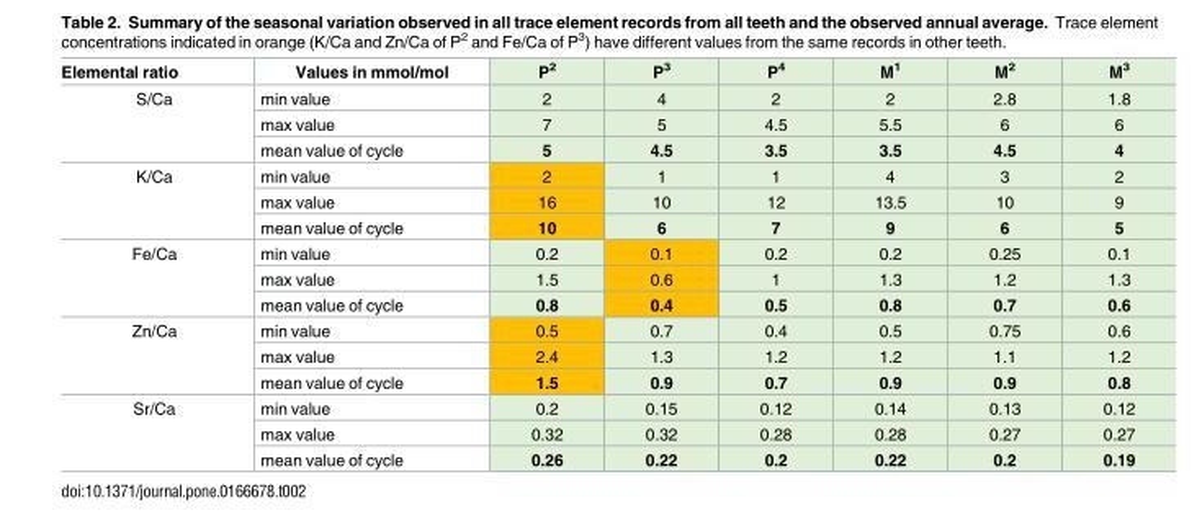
<table><thead><tr><td>Elemental ratio</td><td>Values in mmol/mol</td><td>P<sup>2</sup></td><td>P<sup>3</sup></td><td>P<sup>4</sup></td><td>M<sup>1</sup></td><td>M<sup>2</sup></td><td>M<sup>3</sup></td></tr></thead><tbody><tr><td rowspan="3">S/Ca</td><td>min value</td><td>2</td><td>4</td><td>2</td><td>2</td><td>2.8</td><td>1.8</td></tr><tr><td>max value</td><td>7</td><td>5</td><td>4.5</td><td>5.5</td><td>6</td><td>6</td></tr><tr><td>mean value of cycle</td><td>5</td><td>4.5</td><td>3.5</td><td>3.5</td><td>4.5</td><td>4</td></tr><tr><td rowspan="3">K/Ca</td><td>min value</td><td>2</td><td>1</td><td>1</td><td>4</td><td>3</td><td>2</td></tr><tr><td>max value</td><td>16</td><td>10</td><td>12</td><td>13.5</td><td>10</td><td>9</td></tr><tr><td>mean value of cycle</td><td>10</td><td>6</td><td>7</td><td>9</td><td>6</td><td>5</td></tr><tr><td rowspan="3">Fe/Ca</td><td>min value</td><td>0.2</td><td>0.1</td><td>0.2</td><td>0.2</td><td>0.25</td><td>0.1</td></tr><tr><td>max value</td><td>1.5</td><td>0.6</td><td>1</td><td>1.3</td><td>1.2</td><td>1.3</td></tr><tr><td>mean value of cycle</td><td>0.8</td><td>0.4</td><td>0.5</td><td>0.8</td><td>0.7</td><td>0.6</td></tr><tr><td rowspan="3">Zn/Ca</td><td>min value</td><td>0.5</td><td>0.7</td><td>0.4</td><td>0.5</td><td>0.75</td><td>0.6</td></tr><tr><td>max value</td><td>2.4</td><td>1.3</td><td>1.2</td><td>1.2</td><td>1.1</td><td>1.2</td></tr><tr><td>mean value of cycle</td><td>1.5</td><td>0.9</td><td>0.7</td><td>0.9</td><td>0.9</td><td>0.8</td></tr><tr><td rowspan="3">Sr/Ca</td><td>min value</td><td>0.2</td><td>0.15</td><td>0.12</td><td>0.14</td><td>0.13</td><td>0.12</td></tr><tr><td>max value</td><td>0.32</td><td>0.32</td><td>0.28</td><td>0.28</td><td>0.27</td><td>0.27</td></tr><tr><td>mean value of cycle</td><td>0.26</td><td>0.22</td><td>0.2</td><td>0.22</td><td>0.2</td><td>0.19</td></tr></tbody></table>